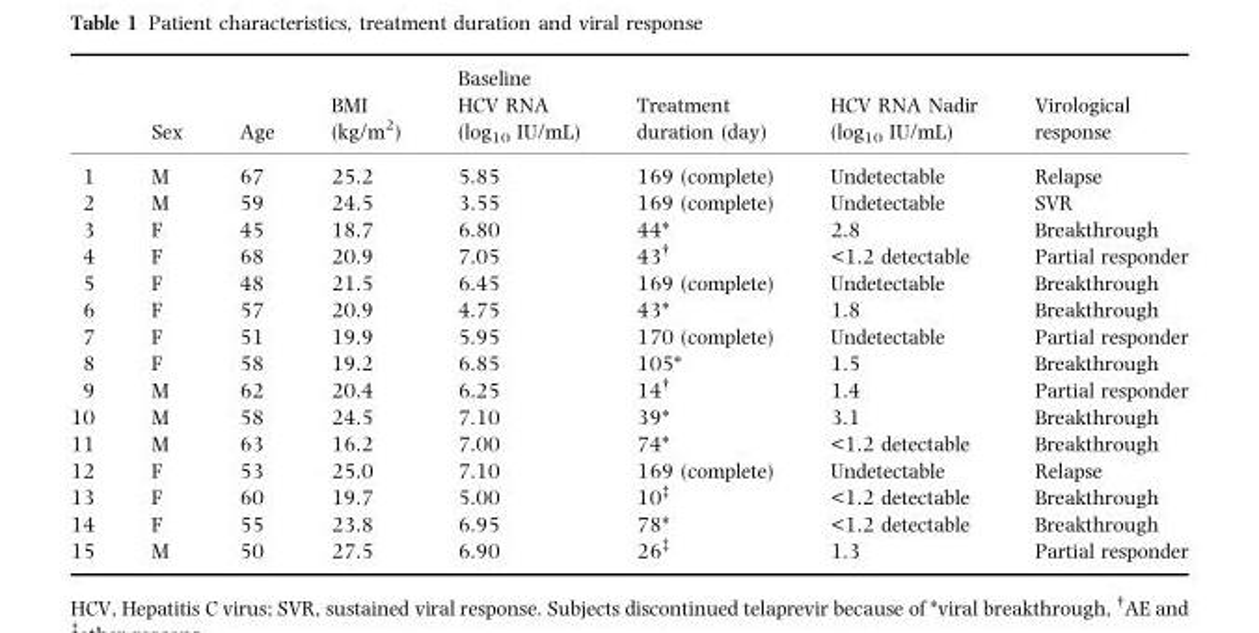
<table><thead><tr><td></td><td>Sex</td><td>Age</td><td>BMI (kg/m<sup>2</sup>)</td><td>Baseline HCV RNA (log<sub>10</sub> IU/mL)</td><td>Treatment duration (day)</td><td>HCV RNA Nadir (log<sub>10</sub> IU/mL)</td><td>Virological response</td></tr></thead><tbody><tr><td>1</td><td>M</td><td>67</td><td>25.2</td><td>5.85</td><td>169 (complete)</td><td>Undetectable</td><td>Relapse</td></tr><tr><td>2</td><td>M</td><td>59</td><td>24.5</td><td>3.55</td><td>169 (complete)</td><td>Undetectable</td><td>SVR</td></tr><tr><td>3</td><td>F</td><td>45</td><td>18.7</td><td>6.80</td><td>44*</td><td>2.8</td><td>Breakthrough</td></tr><tr><td>4</td><td>F</td><td>68</td><td>20.9</td><td>7.05</td><td>43<sup>†</sup></td><td>&lt;1.2 detectable</td><td>Partial responder</td></tr><tr><td>5</td><td>F</td><td>48</td><td>21.5</td><td>6.45</td><td>169 (complete)</td><td>Undetectable</td><td>Breakthrough</td></tr><tr><td>6</td><td>F</td><td>57</td><td>20.9</td><td>4.75</td><td>43*</td><td>1.8</td><td>Breakthrough</td></tr><tr><td>7</td><td>F</td><td>51</td><td>19.9</td><td>5.95</td><td>170 (complete)</td><td>Undetectable</td><td>Partial responder</td></tr><tr><td>8</td><td>F</td><td>58</td><td>19.2</td><td>6.85</td><td>105*</td><td>1.5</td><td>Breakthrough</td></tr><tr><td>9</td><td>M</td><td>62</td><td>20.4</td><td>6.25</td><td>14<sup>†</sup></td><td>1.4</td><td>Partial responder</td></tr><tr><td>10</td><td>M</td><td>58</td><td>24.5</td><td>7.10</td><td>39*</td><td>3.1</td><td>Breakthrough</td></tr><tr><td>11</td><td>M</td><td>63</td><td>16.2</td><td>7.00</td><td>74*</td><td>&lt;1.2 detectable</td><td>Breakthrough</td></tr><tr><td>12</td><td>F</td><td>53</td><td>25.0</td><td>7.10</td><td>169 (complete)</td><td>Undetectable</td><td>Relapse</td></tr><tr><td>13</td><td>F</td><td>60</td><td>19.7</td><td>5.00</td><td>10<sup>‡</sup></td><td>&lt;1.2 detectable</td><td>Breakthrough</td></tr><tr><td>14</td><td>F</td><td>55</td><td>23.8</td><td>6.95</td><td>78*</td><td>&lt;1.2 detectable</td><td>Breakthrough</td></tr><tr><td>15</td><td>M</td><td>50</td><td>27.5</td><td>6.90</td><td>26<sup>‡</sup></td><td>1.3</td><td>Partial responder</td></tr></tbody></table>